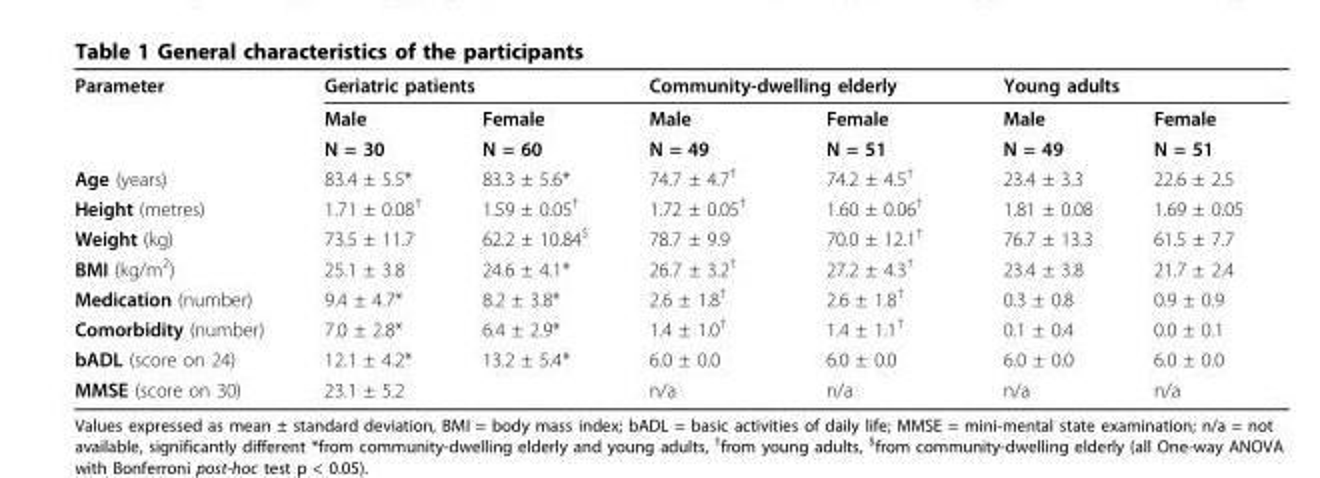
<table><tbody><tr><td rowspan="3">Parameter</td><td colspan="2">Geriatric patients</td><td colspan="2">Community-dwelling elderly</td><td colspan="2">Young adults</td></tr><tr><td>Male</td><td>Female</td><td>Male</td><td>Female</td><td>Male</td><td>Female</td></tr><tr><td>N = 30</td><td>N = 60</td><td>N = 49</td><td>N = 51</td><td>N = 49</td><td>N = 51</td></tr><tr><td>Age (years)</td><td>83.4 ± 5.5*</td><td>83.3 ± 5.6*</td><td>74.7 ± 4.7<sup>†</sup></td><td>74.2 ± 4.5<sup>†</sup></td><td>23.4 ± 3.3</td><td>22.6 ± 2.5</td></tr><tr><td>Height (metres)</td><td>1.71 ± 0.08<sup>†</sup></td><td>1.59 ± 0.05<sup>†</sup></td><td>1.72 ± 0.05<sup>†</sup></td><td>1.60 ± 0.06<sup>†</sup></td><td>1.81 ± 0.08</td><td>1.69 ± 0.05</td></tr><tr><td>Weight (kg)</td><td>73.5 ± 11.7</td><td>62.2 ± 10.84<sup>$</sup></td><td>78.7 ± 9.9</td><td>70.0 ± 12.1<sup>†</sup></td><td>76.7 ± 13.3</td><td>61.5 ± 7.7</td></tr><tr><td>BMI (kg/m<sup>2</sup>)</td><td>25.1 ± 3.8</td><td>24.6 ± 4.1*</td><td>26.7 ± 3.2<sup>†</sup></td><td>27.2 ± 4.3<sup>†</sup></td><td>23.4 ± 3.8</td><td>21.7 ± 2.4</td></tr><tr><td>Medication (number)</td><td>9.4 ± 4.7*</td><td>8.2 ± 3.8*</td><td>2.6 ± 1.8<sup>†</sup></td><td>2.6 ± 1.8<sup>†</sup></td><td>0.3 ± 0.8</td><td>0.9 ± 0.9</td></tr><tr><td>Comorbidity (number)</td><td>7.0 ± 2.8*</td><td>6.4 ± 2.9*</td><td>1.4 ± 1.0<sup>†</sup></td><td>1.4 ± 1.1<sup>†</sup></td><td>0.1 ± 0.4</td><td>0.0 ± 0.1</td></tr><tr><td>bADL (score on 24)</td><td>12.1 ± 4.2*</td><td>13.2 ± 5.4*</td><td>6.0 ± 0.0</td><td>6.0 ± 0.0</td><td>6.0 ± 0.0</td><td>6.0 ± 0.0</td></tr><tr><td>MMSE (score on 30)</td><td colspan="2">23.1 ± 5.2</td><td>n/a</td><td>n/a</td><td>n/a</td><td>n/a</td></tr></tbody></table>